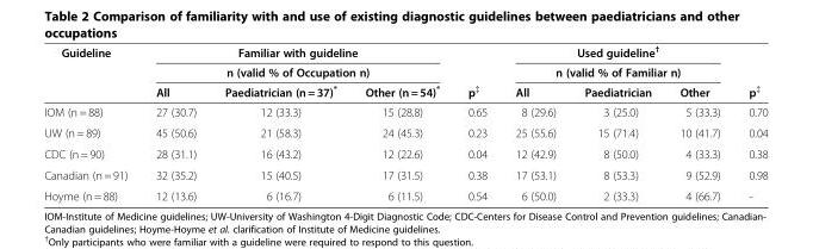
<table><thead><tr><td rowspan="3">Guideline</td><td rowspan="2" colspan="3">Familiar with guideline n (valid % of Occupation n)</td><td rowspan="3">p<sup>‡</sup></td><td rowspan="2" colspan="3">Used guideline<sup>†</sup> n (valid % of Familiar n)</td><td rowspan="3">p<sup>‡</sup></td></tr><tr></tr><tr><td>All</td><td>Paediatrician (n = 37)*</td><td>Other (n = 54)*</td><td>All</td><td>Paediatrician</td><td>Other</td></tr></thead><tbody><tr><td>IOM (n = 88)</td><td>27 (30.7)</td><td>12 (33.3)</td><td>15 (28.8)</td><td>0.65</td><td>8 (29.6)</td><td>3 (25.0)</td><td>5 (33.3)</td><td>0.70</td></tr><tr><td>UW (n = 89)</td><td>45 (50.6)</td><td>21 (58.3)</td><td>24 (45.3)</td><td>0.23</td><td>25 (55.6)</td><td>15 (71.4)</td><td>10 (41.7)</td><td>0.04</td></tr><tr><td>CDC (n = 90)</td><td>28 (31.1)</td><td>16 (43.2)</td><td>12 (22.6)</td><td>0.04</td><td>12 (42.9)</td><td>8 (50.0)</td><td>4 (33.3)</td><td>0.38</td></tr><tr><td>Canadian (n = 91)</td><td>32 (35.2)</td><td>15 (40.5)</td><td>17 (31.5)</td><td>0.38</td><td>17 (53.1)</td><td>8 (53.3)</td><td>9 (52.9)</td><td>0.98</td></tr><tr><td>Hoyme (n = 88)</td><td>12 (13.6)</td><td>6 (16.7)</td><td>6 (11.5)</td><td>0.54</td><td>6 (50.0)</td><td>2 (33.3)</td><td>4 (66.7)</td><td>-</td></tr></tbody></table>